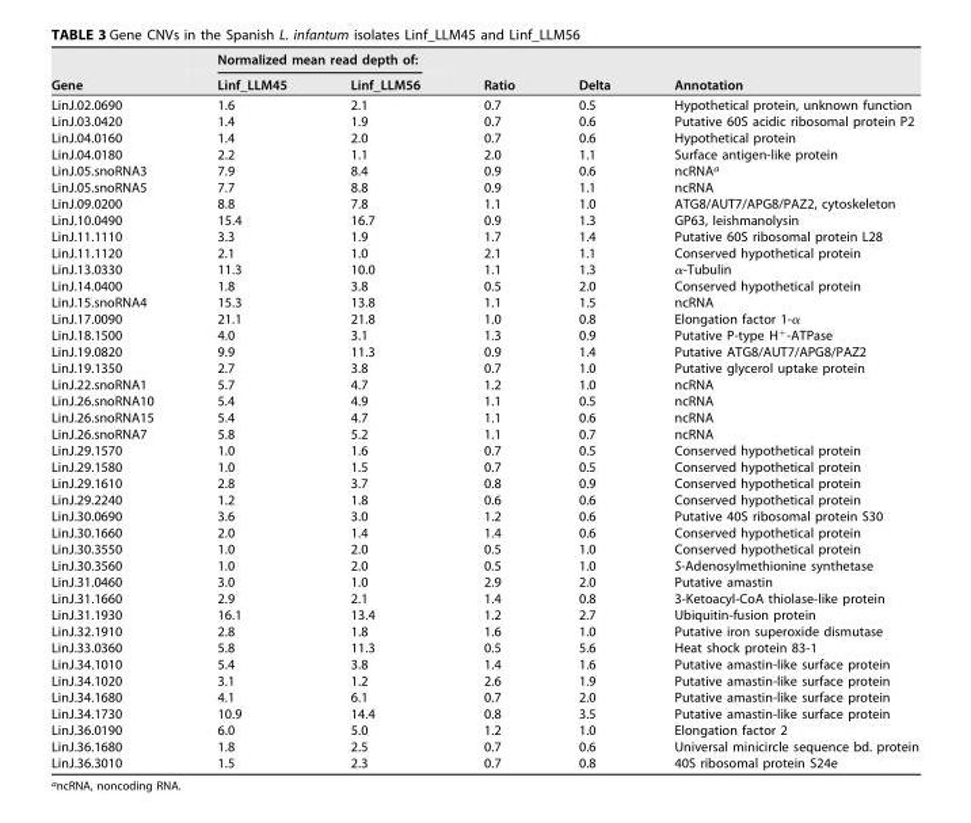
<table><thead><tr><td rowspan="2">Gene</td><td colspan="2">Normalized mean read depth of:</td><td rowspan="2">Ratio</td><td rowspan="2">Delta</td><td rowspan="2">Annotation</td></tr><tr><td>Linf_LLM45</td><td>Linf_LLM56</td></tr></thead><tbody><tr><td>LinJ.02.0690</td><td>1.6</td><td>2.1</td><td>0.7</td><td>0.5</td><td>Hypothetical protein, unknown function</td></tr><tr><td>LinJ.03.0420</td><td>1.4</td><td>1.9</td><td>0.7</td><td>0.6</td><td>Putative 60S acidic ribosomal protein P2</td></tr><tr><td>LinJ.04.0160</td><td>1.4</td><td>2.0</td><td>0.7</td><td>0.6</td><td>Hypothetical protein</td></tr><tr><td>LinJ.04.0180</td><td>2.2</td><td>1.1</td><td>2.0</td><td>1.1</td><td>Surface antigen-like protein</td></tr><tr><td>LinJ.05.snoRNA3</td><td>7.9</td><td>8.4</td><td>0.9</td><td>0.6</td><td>ncRNA<sup>a</sup></td></tr><tr><td>LinJ.05.snoRNA5</td><td>7.7</td><td>8.8</td><td>0.9</td><td>1.1</td><td>ncRNA</td></tr><tr><td>LinJ.09.0200</td><td>8.8</td><td>7.8</td><td>1.1</td><td>1.0</td><td>ATG8/AUT7/APG8/PAZ2, cytoskeleton</td></tr><tr><td>LinJ.10.0490</td><td>15.4</td><td>16.7</td><td>0.9</td><td>1.3</td><td>GP63, leishmanolysin</td></tr><tr><td>LinJ.11.1110</td><td>3.3</td><td>1.9</td><td>1.7</td><td>1.4</td><td>Putative 60S ribosomal protein L28</td></tr><tr><td>LinJ.11.1120</td><td>2.1</td><td>1.0</td><td>2.1</td><td>1.1</td><td>Conserved hypothetical protein</td></tr><tr><td>LinJ.13.0330</td><td>11.3</td><td>10.0</td><td>1.1</td><td>1.3</td><td>α-Tubulin</td></tr><tr><td>LinJ.14.0400</td><td>1.8</td><td>3.8</td><td>0.5</td><td>2.0</td><td>Conserved hypothetical protein</td></tr><tr><td>LinJ.15.snoRNA4</td><td>15.3</td><td>13.8</td><td>1.1</td><td>1.5</td><td>ncRNA</td></tr><tr><td>LinJ.17.0090</td><td>21.1</td><td>21.8</td><td>1.0</td><td>0.8</td><td>Elongation factor 1-α</td></tr><tr><td>LinJ.18.1500</td><td>4.0</td><td>3.1</td><td>1.3</td><td>0.9</td><td>Putative P-type H<sup>+</sup>-ATPase</td></tr><tr><td>LinJ.19.0820</td><td>9.9</td><td>11.3</td><td>0.9</td><td>1.4</td><td>Putative ATG8/AUT7/APG8/PAZ2</td></tr><tr><td>LinJ.19.1350</td><td>2.7</td><td>3.8</td><td>0.7</td><td>1.0</td><td>Putative glycerol uptake protein</td></tr><tr><td>LinJ.22.snoRNA1</td><td>5.7</td><td>4.7</td><td>1.2</td><td>1.0</td><td>ncRNA</td></tr><tr><td>LinJ.26.snoRNA10</td><td>5.4</td><td>4.9</td><td>1.1</td><td>0.5</td><td>ncRNA</td></tr><tr><td>LinJ.26.snoRNA15</td><td>5.4</td><td>4.7</td><td>1.1</td><td>0.6</td><td>ncRNA</td></tr><tr><td>LinJ.26.snoRNA7</td><td>5.8</td><td>5.2</td><td>1.1</td><td>0.7</td><td>ncRNA</td></tr><tr><td>LinJ.29.1570</td><td>1.0</td><td>1.6</td><td>0.7</td><td>0.5</td><td>Conserved hypothetical protein</td></tr><tr><td>LinJ.29.1580</td><td>1.0</td><td>1.5</td><td>0.7</td><td>0.5</td><td>Conserved hypothetical protein</td></tr><tr><td>LinJ.29.1610</td><td>2.8</td><td>3.7</td><td>0.8</td><td>0.9</td><td>Conserved hypothetical protein</td></tr><tr><td>LinJ.29.2240</td><td>1.2</td><td>1.8</td><td>0.6</td><td>0.6</td><td>Conserved hypothetical protein</td></tr><tr><td>LinJ.30.0690</td><td>3.6</td><td>3.0</td><td>1.2</td><td>0.6</td><td>Putative 40S ribosomal protein S30</td></tr><tr><td>LinJ.30.1660</td><td>2.0</td><td>1.4</td><td>1.4</td><td>0.6</td><td>Conserved hypothetical protein</td></tr><tr><td>LinJ.30.3550</td><td>1.0</td><td>2.0</td><td>0.5</td><td>1.0</td><td>Conserved hypothetical protein</td></tr><tr><td>LinJ.30.3560</td><td>1.0</td><td>2.0</td><td>0.5</td><td>1.0</td><td>S-Adenosylmethionine synthetase</td></tr><tr><td>LinJ.31.0460</td><td>3.0</td><td>1.0</td><td>2.9</td><td>2.0</td><td>Putative amastin</td></tr><tr><td>LinJ.31.1660</td><td>2.9</td><td>2.1</td><td>1.4</td><td>0.8</td><td>3-Ketoacyl-CoA thiolase-like protein</td></tr><tr><td>LinJ.31.1930</td><td>16.1</td><td>13.4</td><td>1.2</td><td>2.7</td><td>Ubiquitin-fusion protein</td></tr><tr><td>LinJ.32.1910</td><td>2.8</td><td>1.8</td><td>1.6</td><td>1.0</td><td>Putative iron superoxide dismutase</td></tr><tr><td>LinJ.33.0360</td><td>5.8</td><td>11.3</td><td>0.5</td><td>5.6</td><td>Heat shock protein 83-1</td></tr><tr><td>LinJ.34.1010</td><td>5.4</td><td>3.8</td><td>1.4</td><td>1.6</td><td>Putative amastin-like surface protein</td></tr><tr><td>LinJ.34.1020</td><td>3.1</td><td>1.2</td><td>2.6</td><td>1.9</td><td>Putative amastin-like surface protein</td></tr><tr><td>LinJ.34.1680</td><td>4.1</td><td>6.1</td><td>0.7</td><td>2.0</td><td>Putative amastin-like surface protein</td></tr><tr><td>LinJ.34.1730</td><td>10.9</td><td>14.4</td><td>0.8</td><td>3.5</td><td>Putative amastin-like surface protein</td></tr><tr><td>LinJ.36.0190</td><td>6.0</td><td>5.0</td><td>1.2</td><td>1.0</td><td>Elongation factor 2</td></tr><tr><td>LinJ.36.1680</td><td>1.8</td><td>2.5</td><td>0.7</td><td>0.6</td><td>Universal minicircle sequence bd. protein</td></tr><tr><td>LinJ.36.3010</td><td>1.5</td><td>2.3</td><td>0.7</td><td>0.8</td><td>40S ribosomal protein S24e</td></tr></tbody></table>